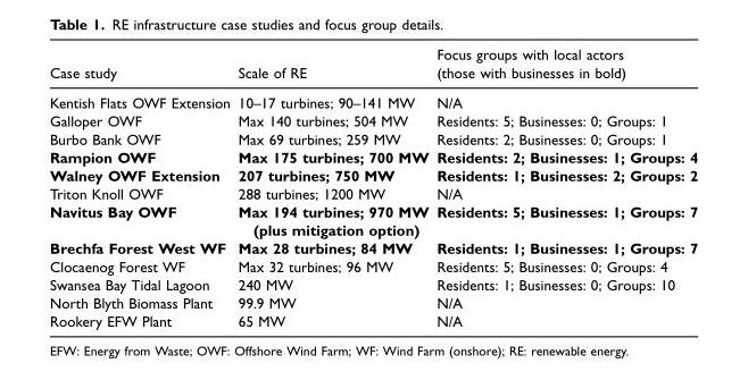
<table><thead><tr><td>Case study</td><td>Scale of RE</td><td>Focus groups with local actors (those with businesses in bold)</td></tr></thead><tbody><tr><td>Kentish Flats OWF Extension</td><td>10–17 turbines; 90–141 MW</td><td>N/A</td></tr><tr><td>Galloper OWF</td><td>Max 140 turbines; 504 MW</td><td>Residents: 5; Businesses: 0; Groups: 1</td></tr><tr><td>Burbo Bank OWF</td><td>Max 69 turbines; 259 MW</td><td>Residents: 2; Businesses: 0; Groups: 1</td></tr><tr><td>Rampion OWF</td><td>Max 175 turbines; 700 MW</td><td>Residents: 2; Businesses: 1; Groups: 4</td></tr><tr><td>Walney OWF Extension</td><td>207 turbines; 750 MW</td><td>Residents: 1; Businesses: 2; Groups: 2</td></tr><tr><td>Triton Knoll OWF</td><td>288 turbines; 1200 MW</td><td>N/A</td></tr><tr><td>Navitus Bay OWF</td><td>Max 194 turbines; 970 MW (plus mitigation option)</td><td>Residents: 5; Businesses: 1; Groups: 7</td></tr><tr><td>Brechfa Forest West WF</td><td>Max 28 turbines; 84 MW</td><td>Residents: 1; Businesses: 1; Groups: 7</td></tr><tr><td>Clocaenog Forest WF</td><td>Max 32 turbines; 96 MW</td><td>Residents: 5; Businesses: 0; Groups: 4</td></tr><tr><td>Swansea Bay Tidal Lagoon</td><td>240 MW</td><td>Residents: 1; Businesses: 0; Groups: 10</td></tr><tr><td>North Blyth Biomass Plant</td><td>99.9 MW</td><td>N/A</td></tr><tr><td>Rookery EFW Plant</td><td>65 MW</td><td>N/A</td></tr></tbody></table>